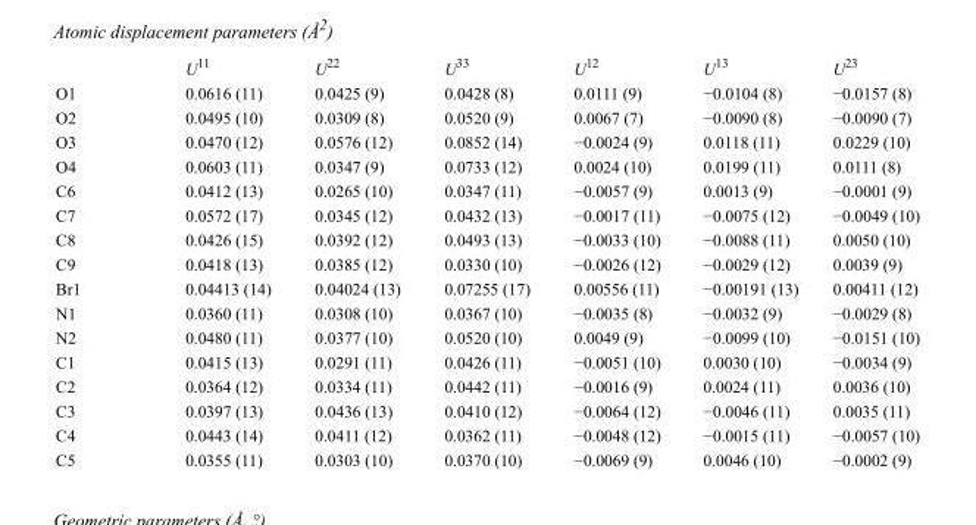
<table><thead><tr><td></td><td>U<sup>11</sup></td><td>U<sup>22</sup></td><td>U<sup>33</sup></td><td>U<sup>12</sup></td><td>U<sup>13</sup></td><td>U<sup>23</sup></td></tr></thead><tbody><tr><td>O1</td><td>0.0616 (11)</td><td>0.0425 (9)</td><td>0.0428 (8)</td><td>0.0111 (9)</td><td>−0.0104 (8)</td><td>−0.0157 (8)</td></tr><tr><td>O2</td><td>0.0495 (10)</td><td>0.0309 (8)</td><td>0.0520 (9)</td><td>0.0067 (7)</td><td>−0.0090 (8)</td><td>−0.0090 (7)</td></tr><tr><td>O3</td><td>0.0470 (12)</td><td>0.0576 (12)</td><td>0.0852 (14)</td><td>−0.0024 (9)</td><td>0.0118 (11)</td><td>0.0229 (10)</td></tr><tr><td>O4</td><td>0.0603 (11)</td><td>0.0347 (9)</td><td>0.0733 (12)</td><td>0.0024 (10)</td><td>0.0199 (11)</td><td>0.0111 (8)</td></tr><tr><td>C6</td><td>0.0412 (13)</td><td>0.0265 (10)</td><td>0.0347 (11)</td><td>−0.0057 (9)</td><td>0.0013 (9)</td><td>−0.0001 (9)</td></tr><tr><td>C7</td><td>0.0572 (17)</td><td>0.0345 (12)</td><td>0.0432 (13)</td><td>−0.0017 (11)</td><td>−0.0075 (12)</td><td>−0.0049 (10)</td></tr><tr><td>C8</td><td>0.0426 (15)</td><td>0.0392 (12)</td><td>0.0493 (13)</td><td>−0.0033 (10)</td><td>−0.0088 (11)</td><td>0.0050 (10)</td></tr><tr><td>C9</td><td>0.0418 (13)</td><td>0.0385 (12)</td><td>0.0330 (10)</td><td>−0.0026 (12)</td><td>−0.0029 (12)</td><td>0.0039 (9)</td></tr><tr><td>Br1</td><td>0.04413 (14)</td><td>0.04024 (13)</td><td>0.07255 (17)</td><td>0.00556 (11)</td><td>−0.00191 (13)</td><td>0.00411 (12)</td></tr><tr><td>N1</td><td>0.0360 (11)</td><td>0.0308 (10)</td><td>0.0367 (10)</td><td>−0.0035 (8)</td><td>−0.0032 (9)</td><td>−0.0029 (8)</td></tr><tr><td>N2</td><td>0.0480 (11)</td><td>0.0377 (10)</td><td>0.0520 (10)</td><td>0.0049 (9)</td><td>−0.0099 (10)</td><td>−0.0151 (10)</td></tr><tr><td>C1</td><td>0.0415 (13)</td><td>0.0291 (11)</td><td>0.0426 (11)</td><td>−0.0051 (10)</td><td>0.0030 (10)</td><td>−0.0034 (9)</td></tr><tr><td>C2</td><td>0.0364 (12)</td><td>0.0334 (11)</td><td>0.0442 (11)</td><td>−0.0016 (9)</td><td>0.0024 (11)</td><td>0.0036 (10)</td></tr><tr><td>C3</td><td>0.0397 (13)</td><td>0.0436 (13)</td><td>0.0410 (12)</td><td>−0.0064 (12)</td><td>−0.0046 (11)</td><td>0.0035 (11)</td></tr><tr><td>C4</td><td>0.0443 (14)</td><td>0.0411 (12)</td><td>0.0362 (11)</td><td>−0.0048 (12)</td><td>−0.0015 (11)</td><td>−0.0057 (10)</td></tr><tr><td>C5</td><td>0.0355 (11)</td><td>0.0303 (10)</td><td>0.0370 (10)</td><td>−0.0069 (9)</td><td>0.0046 (10)</td><td>−0.0002 (9)</td></tr></tbody></table>